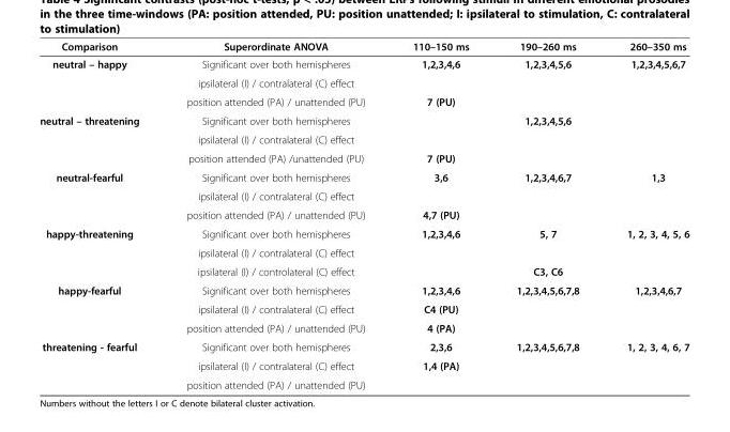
<table><thead><tr><td>Comparison</td><td>Superordinate ANOVA</td><td>110–150 ms</td><td>190–260 ms</td><td>260–350 ms</td></tr></thead><tbody><tr><td rowspan="3">neutral – happy</td><td>Significant over both hemispheres</td><td>1,2,3,4,6</td><td>1,2,3,4,5,6</td><td>1,2,3,4,5,6,7</td></tr><tr><td>ipsilateral (I) / contralateral (C) effect</td><td></td><td></td><td></td></tr><tr><td>position attended (PA) / unattended (PU)</td><td>7 (PU)</td><td></td><td></td></tr><tr><td rowspan="3">neutral – threatening</td><td>Significant over both hemispheres</td><td></td><td>1,2,3,4,5,6</td><td></td></tr><tr><td>ipsilateral (I) / contralateral (C) effect</td><td></td><td></td><td></td></tr><tr><td>position attended (PA) /unattended (PU)</td><td>7 (PU)</td><td></td><td></td></tr><tr><td rowspan="3">neutral-fearful</td><td>Significant over both hemispheres</td><td>3,6</td><td>1,2,3,4,6,7</td><td>1,3</td></tr><tr><td>ipsilateral (I) / contralateral (C) effect</td><td></td><td></td><td></td></tr><tr><td>position attended (PA) / unattended (PU)</td><td>4,7 (PU)</td><td></td><td></td></tr><tr><td rowspan="3">happy-threatening</td><td>Significant over both hemispheres</td><td>1,2,3,4,6</td><td>5, 7</td><td>1, 2, 3, 4, 5, 6</td></tr><tr><td>ipsilateral (I) / contralateral (C) effect</td><td></td><td></td><td></td></tr><tr><td>ipsilateral (I) / controlateral (C) effect</td><td></td><td>C3, C6</td><td></td></tr><tr><td rowspan="3">happy-fearful</td><td>Significant over both hemispheres</td><td>1,2,3,4,6</td><td>1,2,3,4,5,6,7,8</td><td>1,2,3,4,6,7</td></tr><tr><td>ipsilateral (I) / contralateral (C) effect</td><td>C4 (PU)</td><td></td><td></td></tr><tr><td>position attended (PA) / unattended (PU)</td><td>4 (PA)</td><td></td><td></td></tr><tr><td rowspan="3">threatening - fearful</td><td>Significant over both hemispheres</td><td>2,3,6</td><td>1,2,3,4,5,6,7,8</td><td>1, 2, 3, 4, 6, 7</td></tr><tr><td>ipsilateral (I) / contralateral (C) effect</td><td>1,4 (PA)</td><td></td><td></td></tr><tr><td>position attended (PA) / unattended (PU)</td><td></td><td></td><td></td></tr></tbody></table>